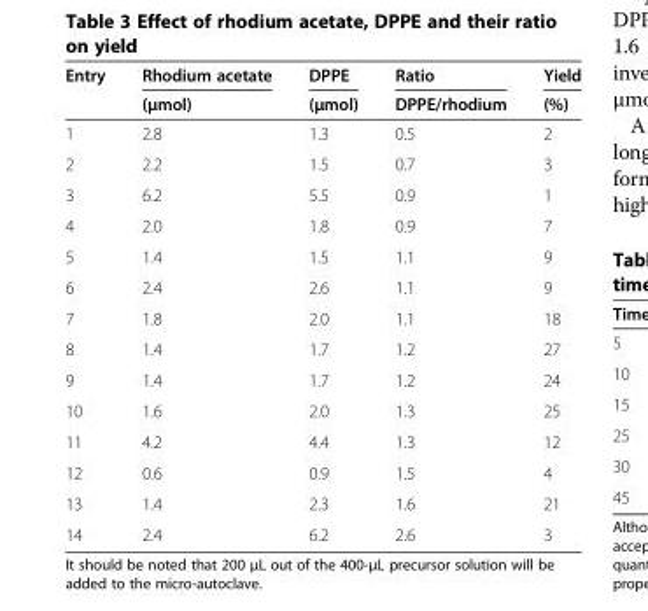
<table><thead><tr><td rowspan="2">Entry</td><td rowspan="2">Rhodium acetate (μmol)</td><td rowspan="2">DPPE (μmol)</td><td rowspan="2">Ratio DPPE/rhodium</td><td rowspan="2">Yield (%)</td></tr><tr></tr></thead><tbody><tr><td>1</td><td>2.8</td><td>1.3</td><td>0.5</td><td>2</td></tr><tr><td>2</td><td>2.2</td><td>1.5</td><td>0.7</td><td>3</td></tr><tr><td>3</td><td>6.2</td><td>5.5</td><td>0.9</td><td>1</td></tr><tr><td>4</td><td>2.0</td><td>1.8</td><td>0.9</td><td>7</td></tr><tr><td>5</td><td>1.4</td><td>1.5</td><td>1.1</td><td>9</td></tr><tr><td>6</td><td>2.4</td><td>2.6</td><td>1.1</td><td>9</td></tr><tr><td>7</td><td>1.8</td><td>2.0</td><td>1.1</td><td>18</td></tr><tr><td>8</td><td>1.4</td><td>1.7</td><td>1.2</td><td>27</td></tr><tr><td>9</td><td>1.4</td><td>1.7</td><td>1.2</td><td>24</td></tr><tr><td>10</td><td>1.6</td><td>2.0</td><td>1.3</td><td>25</td></tr><tr><td>11</td><td>4.2</td><td>4.4</td><td>1.3</td><td>12</td></tr><tr><td>12</td><td>0.6</td><td>0.9</td><td>1.5</td><td>4</td></tr><tr><td>13</td><td>1.4</td><td>2.3</td><td>1.6</td><td>21</td></tr><tr><td>14</td><td>2.4</td><td>6.2</td><td>2.6</td><td>3</td></tr></tbody></table>